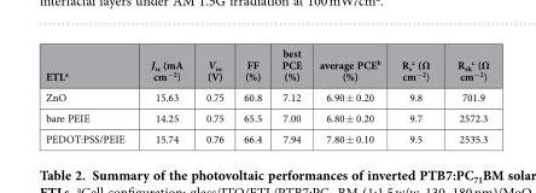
<table><thead><tr><td>ETL<sup>a</sup></td><td>J<sub>sc</sub> (mA cm<sup>−2</sup>)</td><td>V<sub>oc</sub> (V)</td><td>FF (%)</td><td>best PCE (%)</td><td>average PCE<sup>b</sup> (%)</td><td>R<sub>s</sub> <sup>c</sup> (Ω cm<sup>−2</sup>)</td><td>R<sub>sh</sub> <sup>c</sup> (Ω cm<sup>−2</sup>)</td></tr></thead><tbody><tr><td>ZnO</td><td>15.63</td><td>0.75</td><td>60.8</td><td>7.12</td><td>6.90 ± 0.20</td><td>9.8</td><td>701.9</td></tr><tr><td>bare PEIE</td><td>14.25</td><td>0.75</td><td>65.5</td><td>7.00</td><td>6.80 ± 0.20</td><td>9.7</td><td>2572.3</td></tr><tr><td>PEDOT:PSS/PEIE</td><td>15.74</td><td>0.76</td><td>66.4</td><td>7.94</td><td>7.80 ± 0.10</td><td>9.5</td><td>2535.3</td></tr></tbody></table>